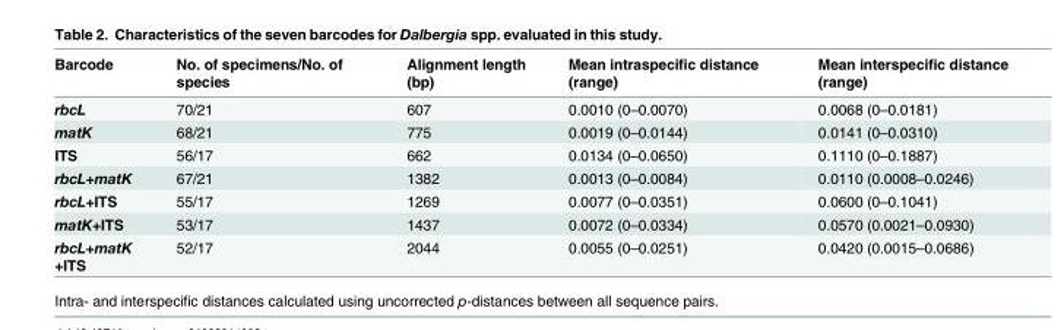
<table><thead><tr><td>Barcode</td><td>No. of specimens/No. of species</td><td>Alignment length (bp)</td><td>Mean intraspecific distance (range)</td><td>Mean interspecific distance (range)</td></tr></thead><tbody><tr><td>rbcL</td><td>70/21</td><td>607</td><td>0.0010 (0–0.0070)</td><td>0.0068 (0–0.0181)</td></tr><tr><td>matK</td><td>68/21</td><td>775</td><td>0.0019 (0–0.0144)</td><td>0.0141 (0–0.0310)</td></tr><tr><td>ITS</td><td>56/17</td><td>662</td><td>0.0134 (0–0.0650)</td><td>0.1110 (0–0.1887)</td></tr><tr><td>rbcL+matK</td><td>67/21</td><td>1382</td><td>0.0013 (0–0.0084)</td><td>0.0110 (0.0008–0.0246)</td></tr><tr><td>rbcL+ITS</td><td>55/17</td><td>1269</td><td>0.0077 (0–0.0351)</td><td>0.0600 (0–0.1041)</td></tr><tr><td>matK+ITS</td><td>53/17</td><td>1437</td><td>0.0072 (0–0.0334)</td><td>0.0570 (0.0021–0.0930)</td></tr><tr><td>rbcL+matK +ITS</td><td>52/17</td><td>2044</td><td>0.0055 (0–0.0251)</td><td>0.0420 (0.0015–0.0686)</td></tr></tbody></table>